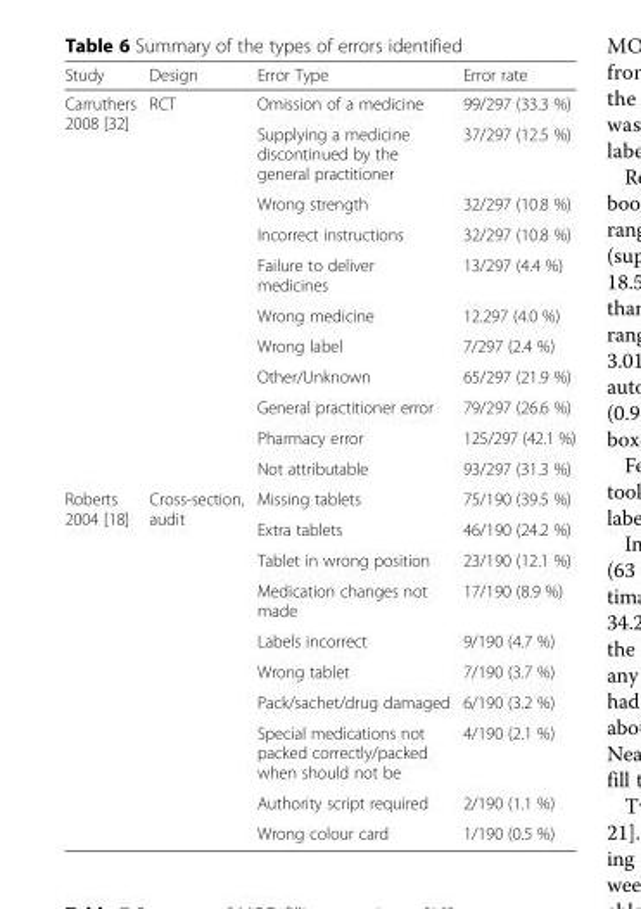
<table><thead><tr><td>Study</td><td>Design</td><td>Error Type</td><td>Error rate</td></tr></thead><tbody><tr><td rowspan="11">Carruthers 2008 [32]</td><td rowspan="11">RCT</td><td>Omission of a medicine</td><td>99/297 (33.3 %)</td></tr><tr><td>Supplying a medicine discontinued by the general practitioner</td><td>37/297 (12.5 %)</td></tr><tr><td>Wrong strength</td><td>32/297 (10.8 %)</td></tr><tr><td>Incorrect instructions</td><td>32/297 (10.8 %)</td></tr><tr><td>Failure to deliver medicines</td><td>13/297 (4.4 %)</td></tr><tr><td>Wrong medicine</td><td>12.297 (4.0 %)</td></tr><tr><td>Wrong label</td><td>7/297 (2.4 %)</td></tr><tr><td>Other/Unknown</td><td>65/297 (21.9 %)</td></tr><tr><td>General practitioner error</td><td>79/297 (26.6 %)</td></tr><tr><td>Pharmacy error</td><td>125/297 (42.1 %)</td></tr><tr><td>Not attributable</td><td>93/297 (31.3 %)</td></tr><tr><td rowspan="10">Roberts 2004 [18]</td><td rowspan="10">Cross-section, audit</td><td>Missing tablets</td><td>75/190 (39.5 %)</td></tr><tr><td>Extra tablets</td><td>46/190 (24.2 %)</td></tr><tr><td>Tablet in wrong position</td><td>23/190 (12.1 %)</td></tr><tr><td>Medication changes not made</td><td>17/190 (8.9 %)</td></tr><tr><td>Labels incorrect</td><td>9/190 (4.7 %)</td></tr><tr><td>Wrong tablet</td><td>7/190 (3.7 %)</td></tr><tr><td>Pack/sachet/drug damaged</td><td>6/190 (3.2 %)</td></tr><tr><td>Special medications not packed correctly/packed when should not be</td><td>4/190 (2.1 %)</td></tr><tr><td>Authority script required</td><td>2/190 (1.1 %)</td></tr><tr><td>Wrong colour card</td><td>1/190 (0.5 %)</td></tr></tbody></table>